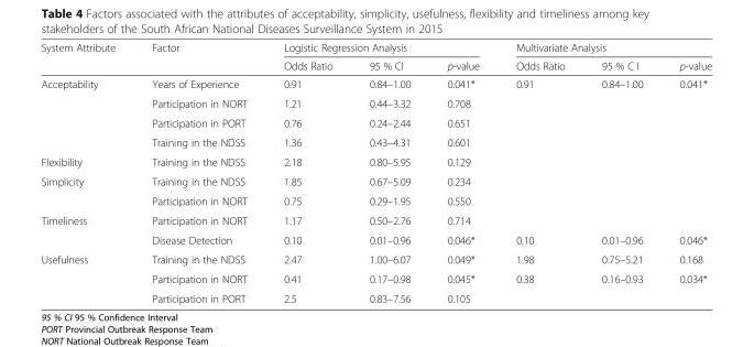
<table><thead><tr><td rowspan="2">System Attribute</td><td rowspan="2">Factor</td><td colspan="3">Logistic Regression Analysis</td><td colspan="3">Multivariate Analysis</td></tr><tr><td>Odds Ratio</td><td>95 % CI</td><td>p-value</td><td>Odds Ratio</td><td>95 % C I</td><td>p-value</td></tr></thead><tbody><tr><td rowspan="4">Acceptability</td><td>Years of Experience</td><td>0.91</td><td>0.84–1.00</td><td>0.041*</td><td>0.91</td><td>0.84–1.00</td><td>0.041*</td></tr><tr><td>Participation in NORT</td><td>1.21</td><td>0.44–3.32</td><td>0.708</td><td></td><td></td><td></td></tr><tr><td>Participation in PORT</td><td>0.76</td><td>0.24–2.44</td><td>0.651</td><td></td><td></td><td></td></tr><tr><td>Training in the NDSS</td><td>1.36</td><td>0.43–4.31</td><td>0.601</td><td></td><td></td><td></td></tr><tr><td>Flexibility</td><td>Training in the NDSS</td><td>2.18</td><td>0.80–5.95</td><td>0.129</td><td></td><td></td><td></td></tr><tr><td rowspan="2">Simplicity</td><td>Training in the NDSS</td><td>1.85</td><td>0.67–5.09</td><td>0.234</td><td></td><td></td><td></td></tr><tr><td>Participation in NORT</td><td>0.75</td><td>0.29–1.95</td><td>0.550</td><td></td><td></td><td></td></tr><tr><td rowspan="2">Timeliness</td><td>Participation in NORT</td><td>1.17</td><td>0.50–2.76</td><td>0.714</td><td></td><td></td><td></td></tr><tr><td>Disease Detection</td><td>0.10</td><td>0.01–0.96</td><td>0.046*</td><td>0.10</td><td>0.01–0.96</td><td>0.046*</td></tr><tr><td rowspan="3">Usefulness</td><td>Training in the NDSS</td><td>2.47</td><td>1.00–6.07</td><td>0.049*</td><td>1.98</td><td>0.75–5.21</td><td>0.168</td></tr><tr><td>Participation in NORT</td><td>0.41</td><td>0.17–0.98</td><td>0.045*</td><td>0.38</td><td>0.16–0.93</td><td>0.034*</td></tr><tr><td>Participation in PORT</td><td>2.5</td><td>0.83–7.56</td><td>0.105</td><td></td><td></td><td></td></tr></tbody></table>